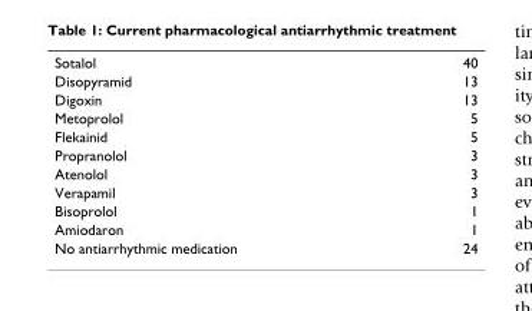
<table><tbody><tr><td>Sotalol</td><td>40</td></tr><tr><td>Disopyramid</td><td>13</td></tr><tr><td>Digoxin</td><td>13</td></tr><tr><td>Metoprolol</td><td>5</td></tr><tr><td>Flekainid</td><td>5</td></tr><tr><td>Propranolol</td><td>3</td></tr><tr><td>Atenolol</td><td>3</td></tr><tr><td>Verapamil</td><td>3</td></tr><tr><td>Bisoprolol</td><td>1</td></tr><tr><td>Amiodaron</td><td>1</td></tr><tr><td>No antiarrhythmic medication</td><td>24</td></tr></tbody></table>